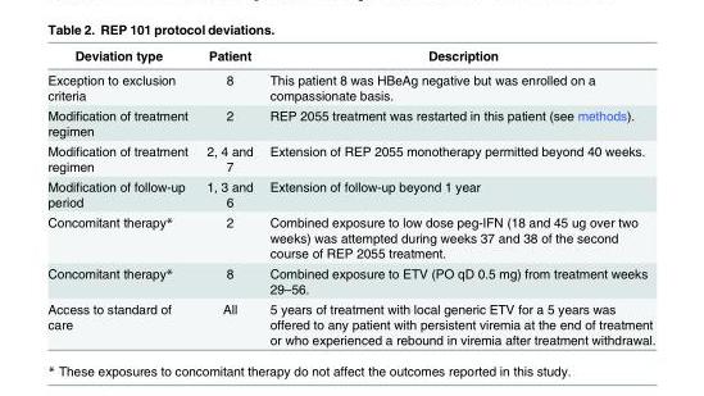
<table><thead><tr><td>Deviation type</td><td>Patient</td><td>Description</td></tr></thead><tbody><tr><td>Exception to exclusion criteria</td><td>8</td><td>This patient 8 was HBeAg negative but was enrolled on a compassionate basis.</td></tr><tr><td>Modification of treatment regimen</td><td>2</td><td>REP 2055 treatment was restarted in this patient (see methods).</td></tr><tr><td>Modification of treatment regimen</td><td>2, 4 and 7</td><td>Extension of REP 2055 monotherapy permitted beyond 40 weeks.</td></tr><tr><td>Modification of follow-up period</td><td>1, 3 and 6</td><td>Extension of follow-up beyond 1 year</td></tr><tr><td>Concomitant therapy*</td><td>2</td><td>Combined exposure to low dose peg-IFN (18 and 45 ug over two weeks) was attempted during weeks 37 and 38 of the second course of REP 2055 treatment.</td></tr><tr><td>Concomitant therapy*</td><td>8</td><td>Combined exposure to ETV (PO qD 0.5 mg) from treatment weeks 29–56.</td></tr><tr><td>Access to standard of care</td><td>All</td><td>5 years of treatment with local generic ETV for a 5 years was offered to any patient with persistent viremia at the end of treatment or who experienced a rebound in viremia after treatment withdrawal.</td></tr></tbody></table>